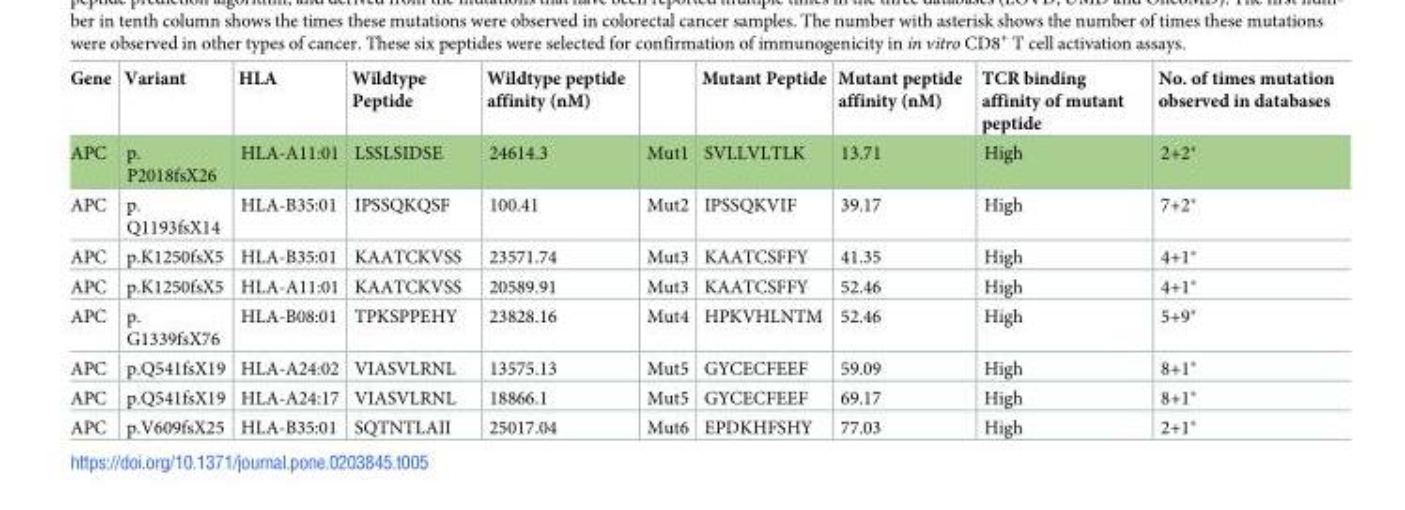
<table><thead><tr><td>Gene</td><td>Variant</td><td>HLA</td><td>Wildtype Peptide</td><td>Wildtype peptide affinity (nM)</td><td></td><td>Mutant Peptide</td><td>Mutant peptide affinity (nM)</td><td>TCR binding affinity of mutant peptide</td><td>No. of times mutation observed in databases</td></tr></thead><tbody><tr><td>APC</td><td>p. P2018fsX26</td><td>HLA-A11:01</td><td>LSSLSIDSE</td><td>24614.3</td><td>Mut1</td><td>SVLLVLTLK</td><td>13.71</td><td>High</td><td>2+2*</td></tr><tr><td>APC</td><td>p. Q1193fsX14</td><td>HLA-B35:01</td><td>IPSSQKQSF</td><td>100.41</td><td>Mut2</td><td>IPSSQKVIF</td><td>39.17</td><td>High</td><td>7+2*</td></tr><tr><td>APC</td><td>p.K1250fsX5</td><td>HLA-B35:01</td><td>KAATCKVSS</td><td>23571.74</td><td>Mut3</td><td>KAATCSFFY</td><td>41.35</td><td>High</td><td>4+1*</td></tr><tr><td>APC</td><td>p.K1250fsX5</td><td>HLA-A11:01</td><td>KAATCKVSS</td><td>20589.91</td><td>Mut3</td><td>KAATCSFFY</td><td>52.46</td><td>High</td><td>4+1*</td></tr><tr><td>APC</td><td>p. G1339fsX76</td><td>HLA-B08:01</td><td>TPKSPPEHY</td><td>23828.16</td><td>Mut4</td><td>HPKVHLNTM</td><td>52.46</td><td>High</td><td>5+9*</td></tr><tr><td>APC</td><td>p.Q541fsX19</td><td>HLA-A24:02</td><td>VIASVLRNL</td><td>13575.13</td><td>Mut5</td><td>GYCECFEEF</td><td>59.09</td><td>High</td><td>8+1*</td></tr><tr><td>APC</td><td>p.Q541fsX19</td><td>HLA-A24:17</td><td>VIASVLRNL</td><td>18866.1</td><td>Mut5</td><td>GYCECFEEF</td><td>69.17</td><td>High</td><td>8+1*</td></tr><tr><td>APC</td><td>p.V609fsX25</td><td>HLA-B35:01</td><td>SQTNTLAII</td><td>25017.04</td><td>Mut6</td><td>EPDKHFSHY</td><td>77.03</td><td>High</td><td>2+1*</td></tr></tbody></table>